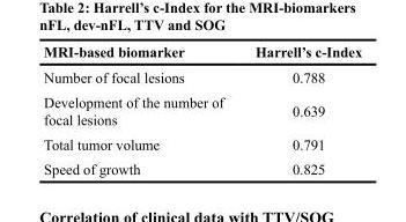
<table><thead><tr><td>MRI-based biomarker</td><td>Harrell’s c-Index</td></tr></thead><tbody><tr><td>Number of focal lesions</td><td>0.788</td></tr><tr><td>Development of the number of focal lesions</td><td>0.639</td></tr><tr><td>Total tumor volume</td><td>0.791</td></tr><tr><td>Speed of growth</td><td>0.825</td></tr></tbody></table>